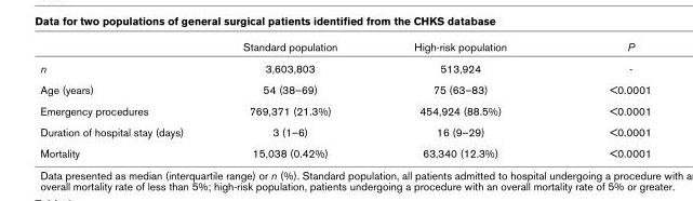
<table><thead><tr><td></td><td>Standard population</td><td>High-risk population</td><td>P</td></tr></thead><tbody><tr><td>n</td><td>3,603,803</td><td>513,924</td><td>-</td></tr><tr><td>Age (years)</td><td>54 (38–69)</td><td>75 (63–83)</td><td>&lt;0.0001</td></tr><tr><td>Emergency procedures</td><td>769,371 (21.3%)</td><td>454,924 (88.5%)</td><td>&lt;0.0001</td></tr><tr><td>Duration of hospital stay (days)</td><td>3 (1–6)</td><td>16 (9–29)</td><td>&lt;0.0001</td></tr><tr><td>Mortality</td><td>15,038 (0.42%)</td><td>63,340 (12.3%)</td><td>&lt;0.0001</td></tr></tbody></table>